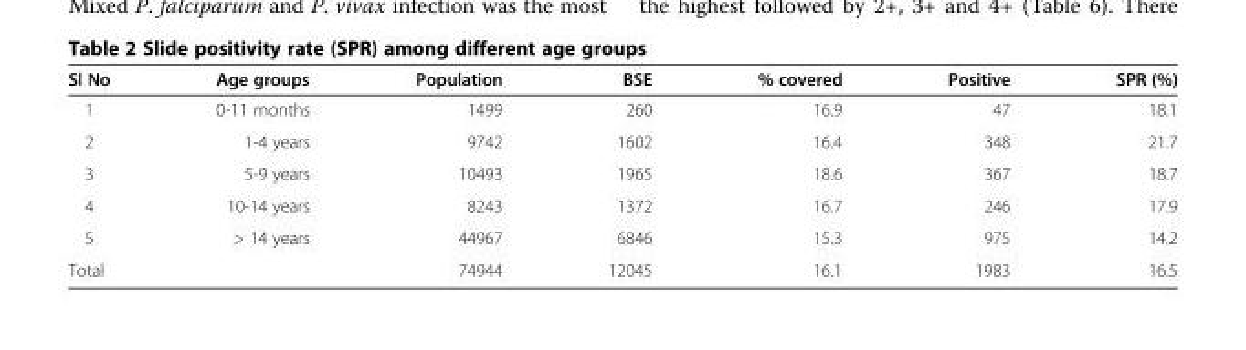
<table><thead><tr><td>Sl No</td><td>Age groups</td><td>Population</td><td>BSE</td><td>% covered</td><td>Positive</td><td>SPR (%)</td></tr></thead><tbody><tr><td>1</td><td>0-11 months</td><td>1499</td><td>260</td><td>16.9</td><td>47</td><td>18.1</td></tr><tr><td>2</td><td>1-4 years</td><td>9742</td><td>1602</td><td>16.4</td><td>348</td><td>21.7</td></tr><tr><td>3</td><td>5-9 years</td><td>10493</td><td>1965</td><td>18.6</td><td>367</td><td>18.7</td></tr><tr><td>4</td><td>10-14 years</td><td>8243</td><td>1372</td><td>16.7</td><td>246</td><td>17.9</td></tr><tr><td>5</td><td>&gt; 14 years</td><td>44967</td><td>6846</td><td>15.3</td><td>975</td><td>14.2</td></tr><tr><td colspan="2">Total</td><td>74944</td><td>12045</td><td>16.1</td><td>1983</td><td>16.5</td></tr></tbody></table>